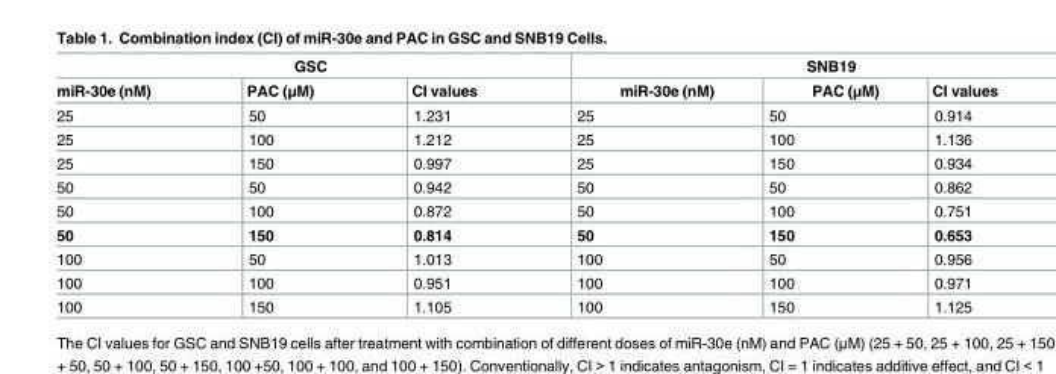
<table><thead><tr><td colspan="3">GSC</td><td colspan="3">SNB19</td></tr><tr><td>miR-30e (nM)</td><td>PAC (μM)</td><td>CI values</td><td>miR-30e (nM)</td><td>PAC (μM)</td><td>CI values</td></tr></thead><tbody><tr><td>25</td><td>50</td><td>1.231</td><td>25</td><td>50</td><td>0.914</td></tr><tr><td>25</td><td>100</td><td>1.212</td><td>25</td><td>100</td><td>1.136</td></tr><tr><td>25</td><td>150</td><td>0.997</td><td>25</td><td>150</td><td>0.934</td></tr><tr><td>50</td><td>50</td><td>0.942</td><td>50</td><td>50</td><td>0.862</td></tr><tr><td>50</td><td>100</td><td>0.872</td><td>50</td><td>100</td><td>0.751</td></tr><tr><td>50</td><td>150</td><td>0.814</td><td>50</td><td>150</td><td>0.653</td></tr><tr><td>100</td><td>50</td><td>1.013</td><td>100</td><td>50</td><td>0.956</td></tr><tr><td>100</td><td>100</td><td>0.951</td><td>100</td><td>100</td><td>0.971</td></tr><tr><td>100</td><td>150</td><td>1.105</td><td>100</td><td>150</td><td>1.125</td></tr></tbody></table>